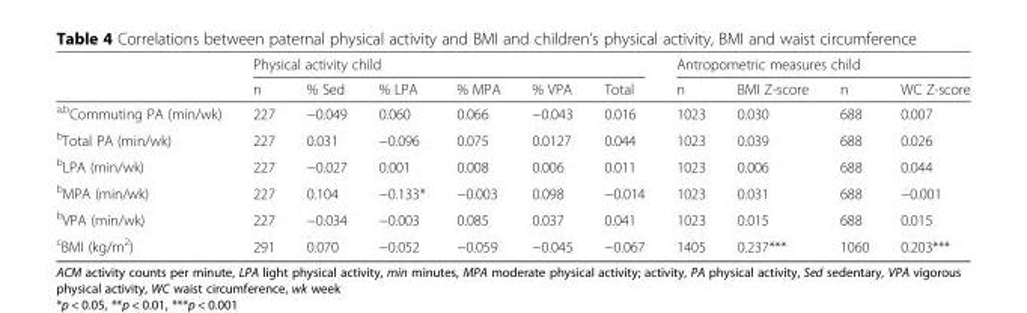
<table><thead><tr><td rowspan="2"></td><td colspan="6">Physical activity child</td><td colspan="4">Antropometric measures child</td></tr><tr><td>n</td><td>% Sed</td><td>% LPA</td><td>% MPA</td><td>% VPA</td><td>Total</td><td>n</td><td>BMI Z-score</td><td>n</td><td>WC Z-score</td></tr></thead><tbody><tr><td><sup>a,b</sup>Commuting PA (min/wk)</td><td>227</td><td>−0.049</td><td>0.060</td><td>0.066</td><td>−0.043</td><td>0.016</td><td>1023</td><td>0.030</td><td>688</td><td>0.007</td></tr><tr><td><sup>b</sup>Total PA (min/wk)</td><td>227</td><td>0.031</td><td>−0.096</td><td>0.075</td><td>0.0127</td><td>0.044</td><td>1023</td><td>0.039</td><td>688</td><td>0.026</td></tr><tr><td><sup>b</sup>LPA (min/wk)</td><td>227</td><td>−0.027</td><td>0.001</td><td>0.008</td><td>0.006</td><td>0.011</td><td>1023</td><td>0.006</td><td>688</td><td>0.044</td></tr><tr><td><sup>b</sup>MPA (min/wk)</td><td>227</td><td>0.104</td><td>−0.133*</td><td>−0.003</td><td>0.098</td><td>−0.014</td><td>1023</td><td>0.031</td><td>688</td><td>−0.001</td></tr><tr><td><sup>b</sup>VPA (min/wk)</td><td>227</td><td>−0.034</td><td>−0.003</td><td>0.085</td><td>0.037</td><td>0.041</td><td>1023</td><td>0.015</td><td>688</td><td>0.015</td></tr><tr><td><sup>c</sup>BMI (kg/m<sup>2</sup>)</td><td>291</td><td>0.070</td><td>−0.052</td><td>−0.059</td><td>−0.045</td><td>−0.067</td><td>1405</td><td>0.237***</td><td>1060</td><td>0.203***</td></tr></tbody></table>